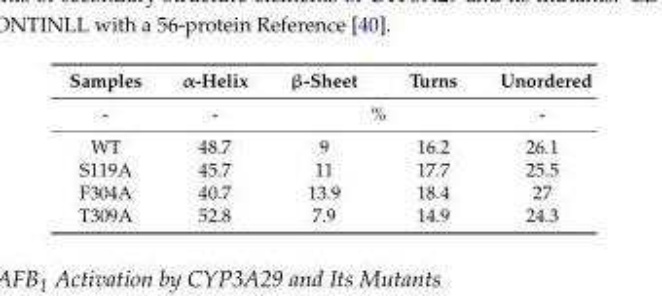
<table><thead><tr><td>Samples</td><td>α-Helix</td><td>β-Sheet</td><td>Turns</td><td>Unordered</td></tr></thead><tbody><tr><td>-</td><td>-</td><td colspan="2">%</td><td>-</td></tr><tr><td>WT</td><td>48.7</td><td>9</td><td>16.2</td><td>26.1</td></tr><tr><td>S119A</td><td>45.7</td><td>11</td><td>17.7</td><td>25.5</td></tr><tr><td>F304A</td><td>40.7</td><td>13.9</td><td>18.4</td><td>27</td></tr><tr><td>T309A</td><td>52.8</td><td>7.9</td><td>14.9</td><td>24.3</td></tr></tbody></table>